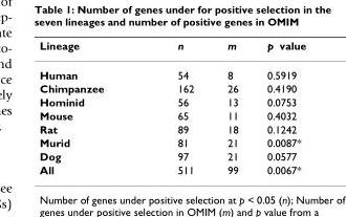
<table><thead><tr><td>Lineage</td><td>n</td><td>m</td><td>p value</td></tr></thead><tbody><tr><td>Human</td><td>54</td><td>8</td><td>0.5919</td></tr><tr><td>Chimpanzee</td><td>162</td><td>26</td><td>0.4190</td></tr><tr><td>Hominid</td><td>56</td><td>13</td><td>0.0753</td></tr><tr><td>Mouse</td><td>65</td><td>11</td><td>0.4032</td></tr><tr><td>Rat</td><td>89</td><td>18</td><td>0.1242</td></tr><tr><td>Murid</td><td>81</td><td>21</td><td>0.0087*</td></tr><tr><td>Dog</td><td>97</td><td>21</td><td>0.0577</td></tr><tr><td>All</td><td>511</td><td>99</td><td>0.0067*</td></tr></tbody></table>